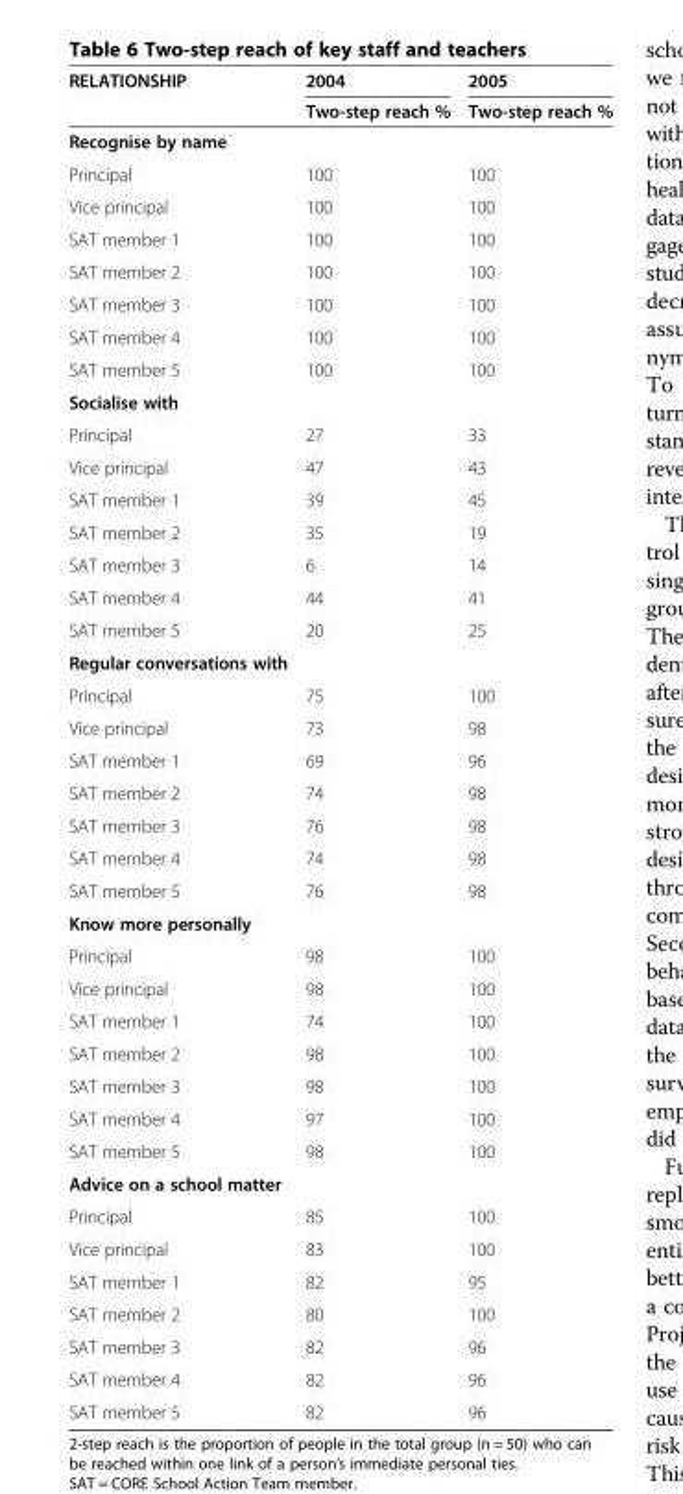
<table><thead><tr><td rowspan="2">RELATIONSHIP</td><td rowspan="2">2004 Two-step reach %</td><td rowspan="2">2005 Two-step reach %</td></tr><tr></tr></thead><tbody><tr><td colspan="3">Recognise by name</td></tr><tr><td>Principal</td><td>100</td><td>100</td></tr><tr><td>Vice principal</td><td>100</td><td>100</td></tr><tr><td>SAT member 1</td><td>100</td><td>100</td></tr><tr><td>SAT member 2</td><td>100</td><td>100</td></tr><tr><td>SAT member 3</td><td>100</td><td>100</td></tr><tr><td>SAT member 4</td><td>100</td><td>100</td></tr><tr><td>SAT member 5</td><td>100</td><td>100</td></tr><tr><td colspan="3">Socialise with</td></tr><tr><td>Principal</td><td>27</td><td>33</td></tr><tr><td>Vice principal</td><td>47</td><td>43</td></tr><tr><td>SAT member 1</td><td>39</td><td>45</td></tr><tr><td>SAT member 2</td><td>35</td><td>19</td></tr><tr><td>SAT member 3</td><td>6</td><td>14</td></tr><tr><td>SAT member 4</td><td>44</td><td>41</td></tr><tr><td>SAT member 5</td><td>20</td><td>25</td></tr><tr><td colspan="3">Regular conversations with</td></tr><tr><td>Principal</td><td>75</td><td>100</td></tr><tr><td>Vice principal</td><td>73</td><td>98</td></tr><tr><td>SAT member 1</td><td>69</td><td>96</td></tr><tr><td>SAT member 2</td><td>74</td><td>98</td></tr><tr><td>SAT member 3</td><td>76</td><td>98</td></tr><tr><td>SAT member 4</td><td>74</td><td>98</td></tr><tr><td>SAT member 5</td><td>76</td><td>98</td></tr><tr><td colspan="3">Know more personally</td></tr><tr><td>Principal</td><td>98</td><td>100</td></tr><tr><td>Vice principal</td><td>98</td><td>100</td></tr><tr><td>SAT member 1</td><td>74</td><td>100</td></tr><tr><td>SAT member 2</td><td>98</td><td>100</td></tr><tr><td>SAT member 3</td><td>98</td><td>100</td></tr><tr><td>SAT member 4</td><td>97</td><td>100</td></tr><tr><td>SAT member 5</td><td>98</td><td>100</td></tr><tr><td colspan="3">Advice on a school matter</td></tr><tr><td>Principal</td><td>85</td><td>100</td></tr><tr><td>Vice principal</td><td>83</td><td>100</td></tr><tr><td>SAT member 1</td><td>82</td><td>95</td></tr><tr><td>SAT member 2</td><td>80</td><td>100</td></tr><tr><td>SAT member 3</td><td>82</td><td>96</td></tr><tr><td>SAT member 4</td><td>82</td><td>96</td></tr><tr><td>SAT member 5</td><td>82</td><td>96</td></tr></tbody></table>